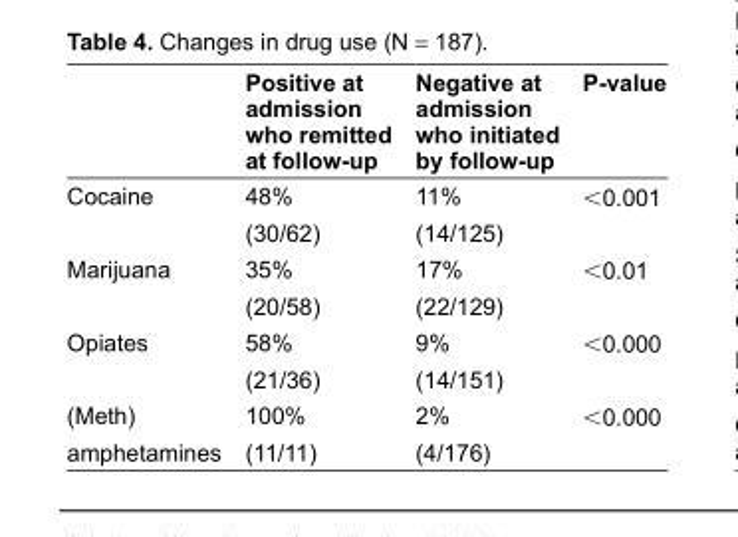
<table><thead><tr><td></td><td>positive at admission who remitted at follow-up</td><td>negative at admission who initiated by follow-up</td><td>p-value</td></tr></thead><tbody><tr><td>Cocaine</td><td>48% (30/62)</td><td>11% (14/125)</td><td>&lt;0.001</td></tr><tr><td>Marijuana</td><td>35% (20/58)</td><td>17% (22/129)</td><td>&lt;0.01</td></tr><tr><td>Opiates</td><td>58% (21/36)</td><td>9% (14/151)</td><td>&lt;0.000</td></tr><tr><td>(Meth) amphetamines</td><td>100% (11/11)</td><td>2% (4/176)</td><td>&lt;0.000</td></tr></tbody></table>